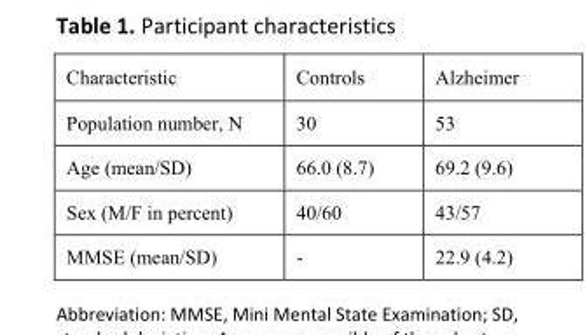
<table><thead><tr><td>Characteristic</td><td>Controls</td><td>Alzheimer</td></tr></thead><tbody><tr><td>Population number, N</td><td>30</td><td>53</td></tr><tr><td>Age (mean/SD)</td><td>66.0 (8.7)</td><td>69.2 (9.6)</td></tr><tr><td>Sex (M/F in percent)</td><td>40/60</td><td>43/57</td></tr><tr><td>MMSE (mean/SD)</td><td>-</td><td>22.9 (4.2)</td></tr></tbody></table>